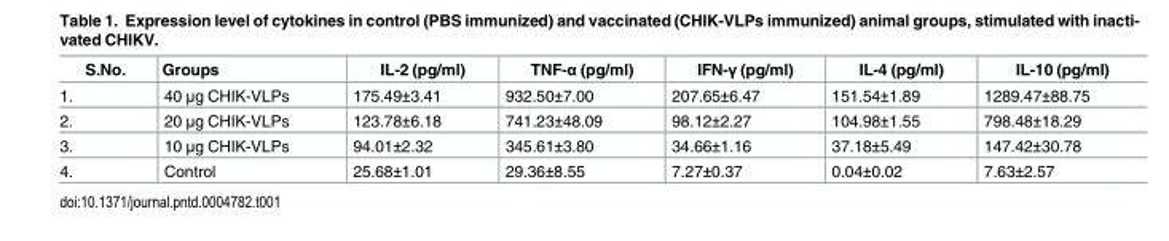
<table><thead><tr><td>S.No.</td><td>Groups</td><td>IL-2 (pg/ml)</td><td>TNF-α (pg/ml)</td><td>IFN-γ (pg/ml)</td><td>IL-4 (pg/ml)</td><td>IL-10 (pg/ml)</td></tr></thead><tbody><tr><td>1.</td><td>40 μg CHIK-VLPs</td><td>175.49±3.41</td><td>932.50±7.00</td><td>207.65±6.47</td><td>151.54±1.89</td><td>1289.47±88.75</td></tr><tr><td>2.</td><td>20 μg CHIK-VLPs</td><td>123.78±6.18</td><td>741.23±48.09</td><td>98.12±2.27</td><td>104.98±1.55</td><td>798.48±18.29</td></tr><tr><td>3.</td><td>10 μg CHIK-VLPs</td><td>94.01±2.32</td><td>345.61±3.80</td><td>34.66±1.16</td><td>37.18±5.49</td><td>147.42±30.78</td></tr><tr><td>4.</td><td>Control</td><td>25.68±1.01</td><td>29.36±8.55</td><td>7.27±0.37</td><td>0.04±0.02</td><td>7.63±2.57</td></tr></tbody></table>